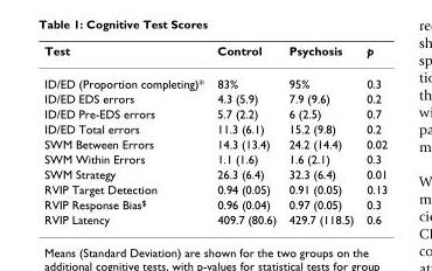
<table><thead><tr><td>Test</td><td>Control</td><td>Psychosis</td><td>p</td></tr></thead><tbody><tr><td>ID/ED (Proportion completing)*</td><td>83%</td><td>95%</td><td>0.3</td></tr><tr><td>ID/ED EDS errors</td><td>4.3 (5.9)</td><td>7.9 (9.6)</td><td>0.2</td></tr><tr><td>ID/ED Pre-EDS errors</td><td>5.7 (2.2)</td><td>6 (2.5)</td><td>0.7</td></tr><tr><td>ID/ED Total errors</td><td>11.3 (6.1)</td><td>15.2 (9.8)</td><td>0.2</td></tr><tr><td>SWM Between Errors</td><td>14.3 (13.4)</td><td>24.2 (14.4)</td><td>0.02</td></tr><tr><td>SWM Within Errors</td><td>1.1 (1.6)</td><td>1.6 (2.1)</td><td>0.3</td></tr><tr><td>SWM Strategy</td><td>26.3 (6.4)</td><td>32.3 (6.4)</td><td>0.01</td></tr><tr><td>RVIP Target Detection</td><td>0.94 (0.05)</td><td>0.91 (0.05)</td><td>0.13</td></tr><tr><td>RVIP Response Bias<sup>$</sup></td><td>0.96 (0.04)</td><td>0.97 (0.05)</td><td>0.3</td></tr><tr><td>RVIP Latency</td><td>409.7 (80.6)</td><td>429.7 (118.5)</td><td>0.6</td></tr></tbody></table>